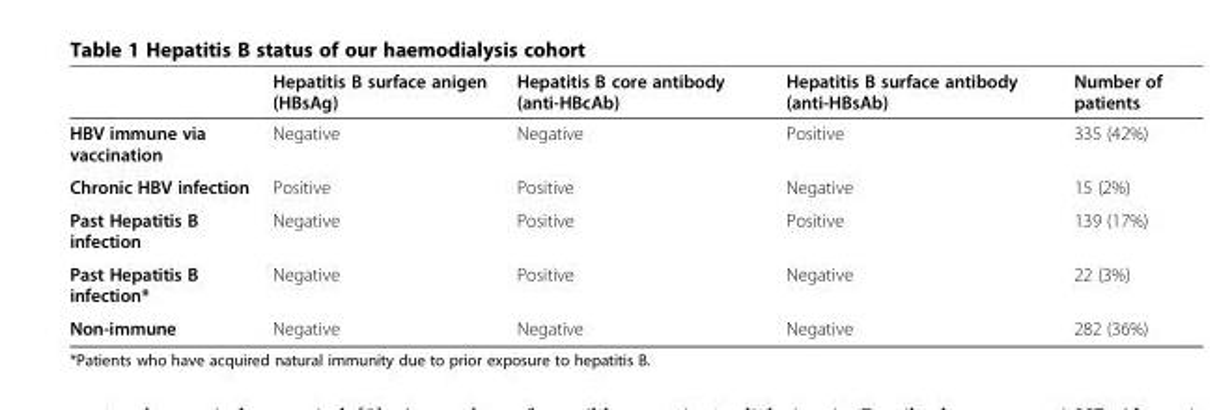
<table><thead><tr><td></td><td>Hepatitis B surface anigen (HBsAg)</td><td>Hepatitis B core antibody (anti-HBcAb)</td><td>Hepatitis B surface antibody (anti-HBsAb)</td><td>Number of patients</td></tr></thead><tbody><tr><td>HBV immune via vaccination</td><td>Negative</td><td>Negative</td><td>Positive</td><td>335 (42%)</td></tr><tr><td>Chronic HBV infection</td><td>Positive</td><td>Positive</td><td>Negative</td><td>15 (2%)</td></tr><tr><td>Past Hepatitis B infection</td><td>Negative</td><td>Positive</td><td>Positive</td><td>139 (17%)</td></tr><tr><td>Past Hepatitis B infection*</td><td>Negative</td><td>Positive</td><td>Negative</td><td>22 (3%)</td></tr><tr><td>Non-immune</td><td>Negative</td><td>Negative</td><td>Negative</td><td>282 (36%)</td></tr></tbody></table>